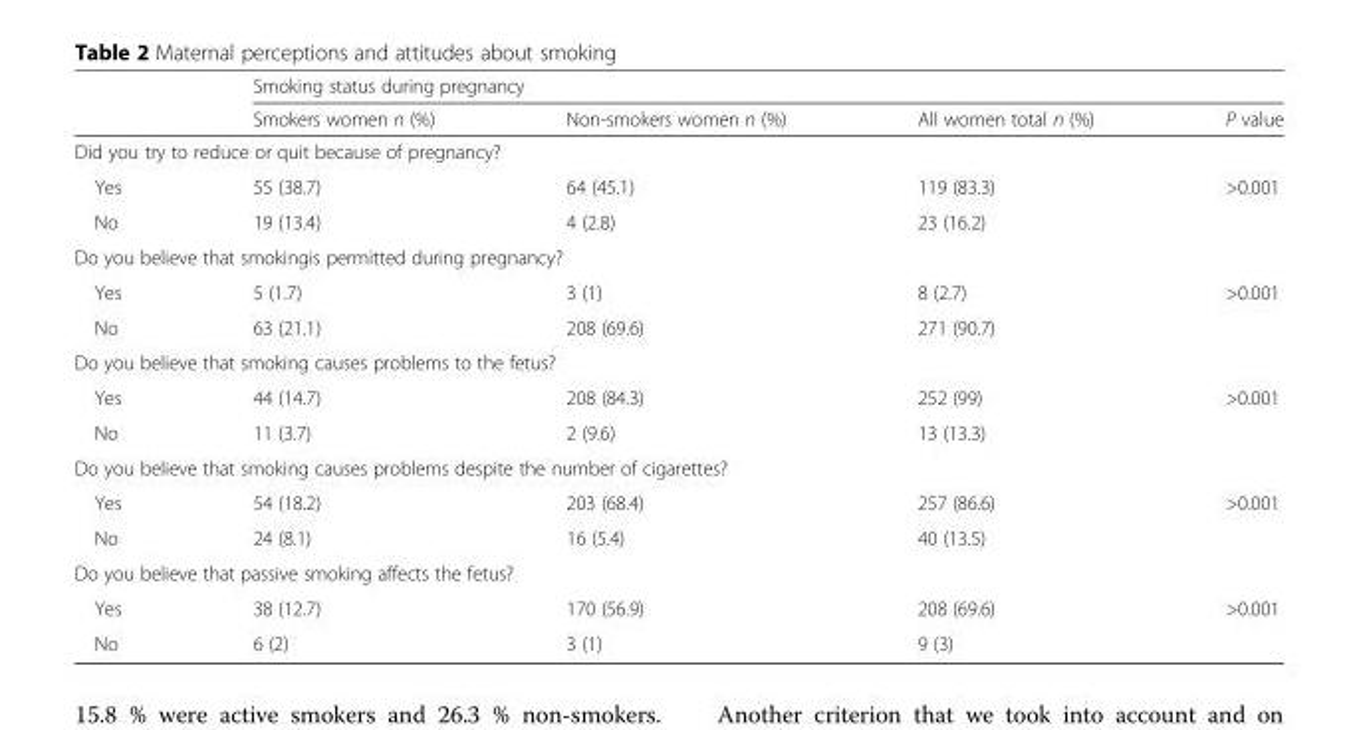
<table><thead><tr><td rowspan="2"></td><td colspan="4">Smoking status during pregnancy</td></tr><tr><td>Smokers women n (%)</td><td>Non-smokers women n (%)</td><td>All women total n (%)</td><td>P value</td></tr></thead><tbody><tr><td colspan="5">Did you try to reduce or quit because of pregnancy?</td></tr><tr><td>Yes</td><td>55 (38.7)</td><td>64 (45.1)</td><td>119 (83.3)</td><td rowspan="2">&gt;0.001</td></tr><tr><td>No</td><td>19 (13.4)</td><td>4 (2.8)</td><td>23 (16.2)</td></tr><tr><td colspan="5">Do you believe that smokingis permitted during pregnancy?</td></tr><tr><td>Yes</td><td>5 (1.7)</td><td>3 (1)</td><td>8 (2.7)</td><td rowspan="2">&gt;0.001</td></tr><tr><td>No</td><td>63 (21.1)</td><td>208 (69.6)</td><td>271 (90.7)</td></tr><tr><td colspan="5">Do you believe that smoking causes problems to the fetus?</td></tr><tr><td>Yes</td><td>44 (14.7)</td><td>208 (84.3)</td><td>252 (99)</td><td rowspan="2">&gt;0.001</td></tr><tr><td>No</td><td>11 (3.7)</td><td>2 (9.6)</td><td>13 (13.3)</td></tr><tr><td colspan="5">Do you believe that smoking causes problems despite the number of cigarettes?</td></tr><tr><td>Yes</td><td>54 (18.2)</td><td>203 (68.4)</td><td>257 (86.6)</td><td rowspan="2">&gt;0.001</td></tr><tr><td>No</td><td>24 (8.1)</td><td>16 (5.4)</td><td>40 (13.5)</td></tr><tr><td colspan="5">Do you believe that passive smoking affects the fetus?</td></tr><tr><td>Yes</td><td>38 (12.7)</td><td>170 (56.9)</td><td>208 (69.6)</td><td rowspan="2">&gt;0.001</td></tr><tr><td>No</td><td>6 (2)</td><td>3 (1)</td><td>9 (3)</td></tr></tbody></table>